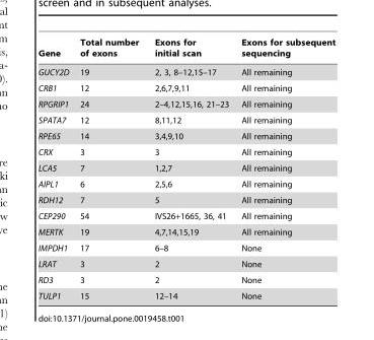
<table><thead><tr><td>Gene</td><td>Total number of exons</td><td>Exons for initial scan</td><td>Exons for subsequent sequencing</td></tr></thead><tbody><tr><td>GUCY2D</td><td>19</td><td>2, 3, 8–12,15–17</td><td>All remaining</td></tr><tr><td>CRB1</td><td>12</td><td>2,6,7,9,11</td><td>All remaining</td></tr><tr><td>RPGRIP1</td><td>24</td><td>2–4,12,15,16, 21–23</td><td>All remaining</td></tr><tr><td>SPATA7</td><td>12</td><td>8,11,12</td><td>All remaining</td></tr><tr><td>RPE65</td><td>14</td><td>3,4,9,10</td><td>All remaining</td></tr><tr><td>CRX</td><td>3</td><td>3</td><td>All remaining</td></tr><tr><td>LCA5</td><td>7</td><td>1,2,7</td><td>All remaining</td></tr><tr><td>AIPL1</td><td>6</td><td>2,5,6</td><td>All remaining</td></tr><tr><td>RDH12</td><td>7</td><td>5</td><td>All remaining</td></tr><tr><td>CEP290</td><td>54</td><td>IVS26+1665, 36, 41</td><td>All remaining</td></tr><tr><td>MERTK</td><td>19</td><td>4,7,14,15,19</td><td>All remaining</td></tr><tr><td>IMPDH1</td><td>17</td><td>6–8</td><td>None</td></tr><tr><td>LRAT</td><td>3</td><td>2</td><td>None</td></tr><tr><td>RD3</td><td>3</td><td>2</td><td>None</td></tr><tr><td>TULP1</td><td>15</td><td>12–14</td><td>None</td></tr></tbody></table>